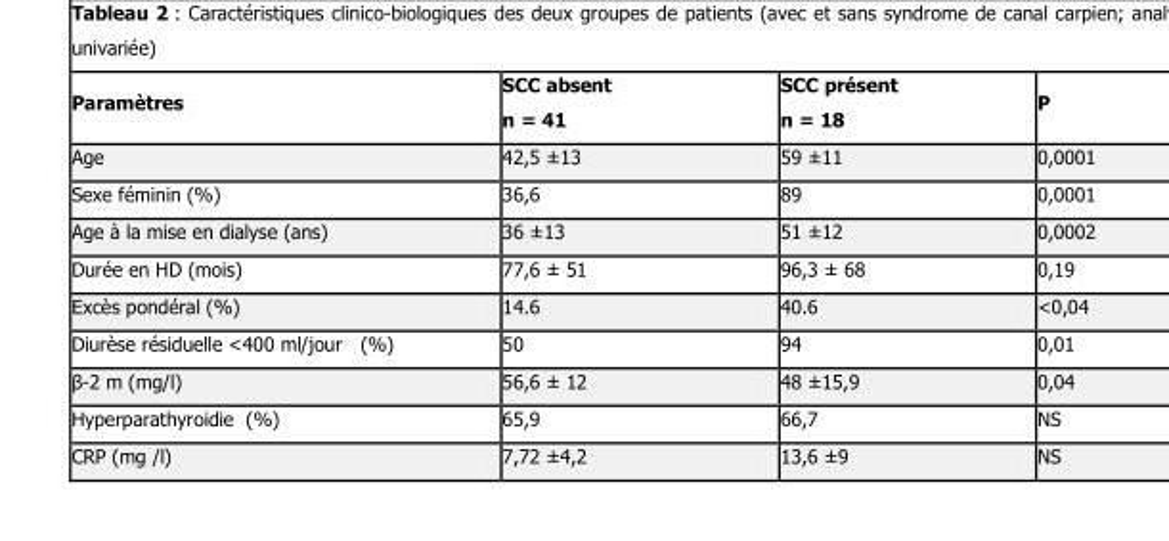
<table><thead><tr><td>Paramètres</td><td>SCC absent n = 41</td><td>SCC présent n = 18</td><td>P</td></tr></thead><tbody><tr><td>Age</td><td>42,5 ±13</td><td>59 ±11</td><td>0,0001</td></tr><tr><td>Sexe féminin (%)</td><td>36,6</td><td>89</td><td>0,0001</td></tr><tr><td>Age à la mise en dialyse (ans)</td><td>36 ±13</td><td>51 ±12</td><td>0,0002</td></tr><tr><td>Durée en HD (mois)</td><td>77,6 ± 51</td><td>96,3 ± 68</td><td>0,19</td></tr><tr><td>Excès pondéral (%)</td><td>14.6</td><td>40.6</td><td>&lt;0,04</td></tr><tr><td>Diurèse résiduelle &lt;400 ml/jour (%)</td><td>50</td><td>94</td><td>0,01</td></tr><tr><td>β-2 m (mg/l)</td><td>56,6 ± 12</td><td>48 ±15,9</td><td>0,04</td></tr><tr><td>Hyperparathyroidie (%)</td><td>65,9</td><td>66,7</td><td>NS</td></tr><tr><td>CRP (mg /l)</td><td>7,72 ±4,2</td><td>13,6 ±9</td><td>NS</td></tr></tbody></table>